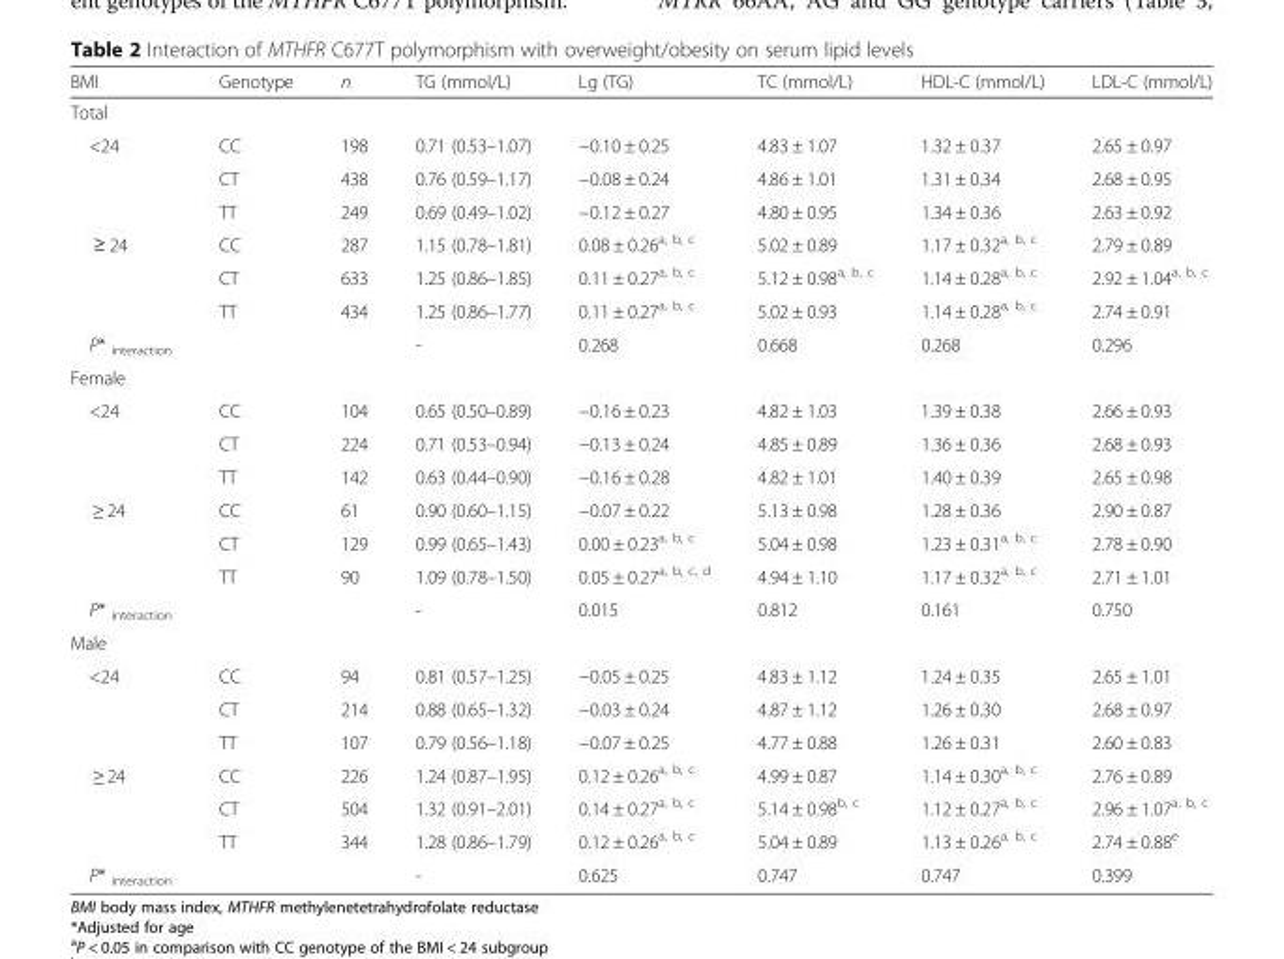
<table><thead><tr><td>BMI</td><td>Genotype</td><td>n</td><td>TG (mmol/L)</td><td>Lg (TG)</td><td>TC (mmol/L)</td><td>HDL-C (mmol/L)</td><td>LDL-C (mmol/L)</td></tr></thead><tbody><tr><td colspan="8">Total</td></tr><tr><td rowspan="3">&lt;24</td><td>CC</td><td>198</td><td>0.71 (0.53–1.07)</td><td>−0.10 ± 0.25</td><td>4.83 ± 1.07</td><td>1.32 ± 0.37</td><td>2.65 ± 0.97</td></tr><tr><td>CT</td><td>438</td><td>0.76 (0.59–1.17)</td><td>−0.08 ± 0.24</td><td>4.86 ± 1.01</td><td>1.31 ± 0.34</td><td>2.68 ± 0.95</td></tr><tr><td>TT</td><td>249</td><td>0.69 (0.49–1.02)</td><td>−0.12 ± 0.27</td><td>4.80 ± 0.95</td><td>1.34 ± 0.36</td><td>2.63 ± 0.92</td></tr><tr><td rowspan="3">≥ 24</td><td>CC</td><td>287</td><td>1.15 (0.78–1.81)</td><td>0.08 ± 0.26<sup>a, b, c</sup></td><td>5.02 ± 0.89</td><td>1.17 ± 0.32<sup>a, b, c</sup></td><td>2.79 ± 0.89</td></tr><tr><td>CT</td><td>633</td><td>1.25 (0.86–1.85)</td><td>0.11 ± 0.27<sup>a, b, c</sup></td><td>5.12 ± 0.98<sup>a, b, c</sup></td><td>1.14 ± 0.28<sup>a, b, c</sup></td><td>2.92 ± 1.04<sup>a, b, c</sup></td></tr><tr><td>TT</td><td>434</td><td>1.25 (0.86–1.77)</td><td>0.11 ± 0.27<sup>a, b, c</sup></td><td>5.02 ± 0.93</td><td>1.14 ± 0.28<sup>a, b, c</sup></td><td>2.74 ± 0.91</td></tr><tr><td>P* <sub>interaction</sub></td><td></td><td></td><td>-</td><td>0.268</td><td>0.668</td><td>0.268</td><td>0.296</td></tr><tr><td colspan="8">Female</td></tr><tr><td rowspan="3">&lt;24</td><td>CC</td><td>104</td><td>0.65 (0.50–0.89)</td><td>−0.16 ± 0.23</td><td>4.82 ± 1.03</td><td>1.39 ± 0.38</td><td>2.66 ± 0.93</td></tr><tr><td>CT</td><td>224</td><td>0.71 (0.53–0.94)</td><td>−0.13 ± 0.24</td><td>4.85 ± 0.89</td><td>1.36 ± 0.36</td><td>2.68 ± 0.93</td></tr><tr><td>TT</td><td>142</td><td>0.63 (0.44–0.90)</td><td>−0.16 ± 0.28</td><td>4.82 ± 1.01</td><td>1.40 ± 0.39</td><td>2.65 ± 0.98</td></tr><tr><td rowspan="3">≥ 24</td><td>CC</td><td>61</td><td>0.90 (0.60–1.15)</td><td>−0.07 ± 0.22</td><td>5.13 ± 0.98</td><td>1.28 ± 0.36</td><td>2.90 ± 0.87</td></tr><tr><td>CT</td><td>129</td><td>0.99 (0.65–1.43)</td><td>0.00 ± 0.23<sup>a, b, c</sup></td><td>5.04 ± 0.98</td><td>1.23 ± 0.31<sup>a, b, c</sup></td><td>2.78 ± 0.90</td></tr><tr><td>TT</td><td>90</td><td>1.09 (0.78–1.50)</td><td>0.05 ± 0.27<sup>a, b, c, d</sup></td><td>4.94 ± 1.10</td><td>1.17 ± 0.32<sup>a, b, c</sup></td><td>2.71 ± 1.01</td></tr><tr><td>P* <sub>interaction</sub></td><td></td><td></td><td>-</td><td>0.015</td><td>0.812</td><td>0.161</td><td>0.750</td></tr><tr><td colspan="8">Male</td></tr><tr><td rowspan="3">&lt;24</td><td>CC</td><td>94</td><td>0.81 (0.57–1.25)</td><td>−0.05 ± 0.25</td><td>4.83 ± 1.12</td><td>1.24 ± 0.35</td><td>2.65 ± 1.01</td></tr><tr><td>CT</td><td>214</td><td>0.88 (0.65–1.32)</td><td>−0.03 ± 0.24</td><td>4.87 ± 1.12</td><td>1.26 ± 0.30</td><td>2.68 ± 0.97</td></tr><tr><td>TT</td><td>107</td><td>0.79 (0.56–1.18)</td><td>−0.07 ± 0.25</td><td>4.77 ± 0.88</td><td>1.26 ± 0.31</td><td>2.60 ± 0.83</td></tr><tr><td rowspan="3">≥ 24</td><td>CC</td><td>226</td><td>1.24 (0.87–1.95)</td><td>0.12 ± 0.26<sup>a, b, c</sup></td><td>4.99 ± 0.87</td><td>1.14 ± 0.30<sup>a, b, c</sup></td><td>2.76 ± 0.89</td></tr><tr><td>CT</td><td>504</td><td>1.32 (0.91–2.01)</td><td>0.14 ± 0.27<sup>a, b, c</sup></td><td>5.14 ± 0.98<sup>b, c</sup></td><td>1.12 ± 0.27<sup>a, b, c</sup></td><td>2.96 ± 1.07<sup>a, b, c</sup></td></tr><tr><td>TT</td><td>344</td><td>1.28 (0.86–1.79)</td><td>0.12 ± 0.26<sup>a, b, c</sup></td><td>5.04 ± 0.89</td><td>1.13 ± 0.26<sup>a, b, c</sup></td><td>2.74 ± 0.88<sup>e</sup></td></tr><tr><td>P* <sub>interaction</sub></td><td></td><td></td><td>-</td><td>0.625</td><td>0.747</td><td>0.747</td><td>0.399</td></tr></tbody></table>